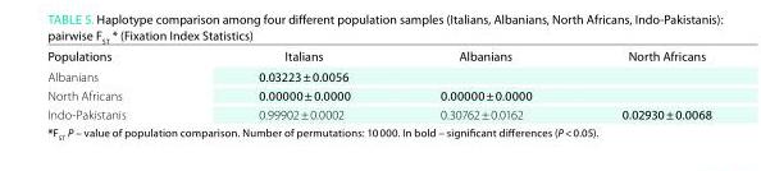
<table><thead><tr><td>Populations</td><td>italians</td><td>Albanians</td><td>North Africans</td></tr></thead><tbody><tr><td>Albanians</td><td>0.03223 ± 0.0056</td><td></td><td></td></tr><tr><td>North Africans</td><td>0.00000 ± 0.0000</td><td>0.00000 ± 0.0000</td><td></td></tr><tr><td>Indo-Pakistanis</td><td>0.99902 ± 0.0002</td><td>0.30762 ± 0.0162</td><td>0.02930 ± 0.0068</td></tr></tbody></table>